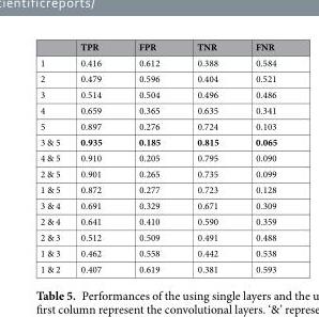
<table><thead><tr><td></td><td>TPR</td><td>FPR</td><td>TNR</td><td>FNR</td></tr></thead><tbody><tr><td>1</td><td>0.416</td><td>0.612</td><td>0.388</td><td>0.584</td></tr><tr><td>2</td><td>0.479</td><td>0.596</td><td>0.404</td><td>0.521</td></tr><tr><td>3</td><td>0.514</td><td>0.504</td><td>0.496</td><td>0.486</td></tr><tr><td>4</td><td>0.659</td><td>0.365</td><td>0.635</td><td>0.341</td></tr><tr><td>5</td><td>0.897</td><td>0.276</td><td>0.724</td><td>0.103</td></tr><tr><td>3 &amp; 5</td><td>0.935</td><td>0.185</td><td>0.815</td><td>0.065</td></tr><tr><td>4 &amp; 5</td><td>0.910</td><td>0.205</td><td>0.795</td><td>0.090</td></tr><tr><td>2 &amp; 5</td><td>0.901</td><td>0.265</td><td>0.735</td><td>0.099</td></tr><tr><td>1 &amp; 5</td><td>0.872</td><td>0.277</td><td>0.723</td><td>0.128</td></tr><tr><td>3 &amp; 4</td><td>0.691</td><td>0.329</td><td>0.671</td><td>0.309</td></tr><tr><td>2 &amp; 4</td><td>0.641</td><td>0.410</td><td>0.590</td><td>0.359</td></tr><tr><td>2 &amp; 3</td><td>0.512</td><td>0.509</td><td>0.491</td><td>0.488</td></tr><tr><td>1 &amp; 3</td><td>0.462</td><td>0.558</td><td>0.442</td><td>0.538</td></tr><tr><td>1 &amp; 2</td><td>0.407</td><td>0.619</td><td>0.381</td><td>0.593</td></tr></tbody></table>